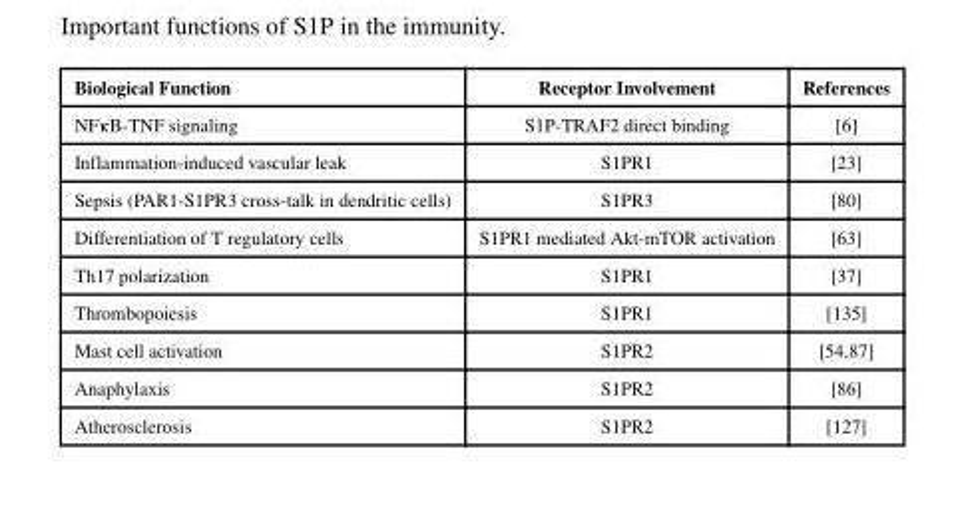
<table><thead><tr><td>Biological Function</td><td>Receptor Involvement</td><td>References</td></tr></thead><tbody><tr><td>NFκB-TNF signaling</td><td>S1P-TRAF2 direct binding</td><td>[6]</td></tr><tr><td>Inflammation-induced vascular leak</td><td>S1PR1</td><td>[23]</td></tr><tr><td>Sepsis (PAR1-S1PR3 cross-talk in dendritic cells)</td><td>S1PR3</td><td>[80]</td></tr><tr><td>Differentiation of T regulatory cells</td><td>S1PR1 mediated Akt-mTOR activation</td><td>[63]</td></tr><tr><td>Th17 polarization</td><td>S1PR1</td><td>[37]</td></tr><tr><td>Thrombopoiesis</td><td>S1PR1</td><td>[135]</td></tr><tr><td>Mast cell activation</td><td>S1PR2</td><td>[54,87]</td></tr><tr><td>Anaphylaxis</td><td>S1PR2</td><td>[86]</td></tr><tr><td>Atherosclerosis</td><td>S1PR2</td><td>[127]</td></tr></tbody></table>